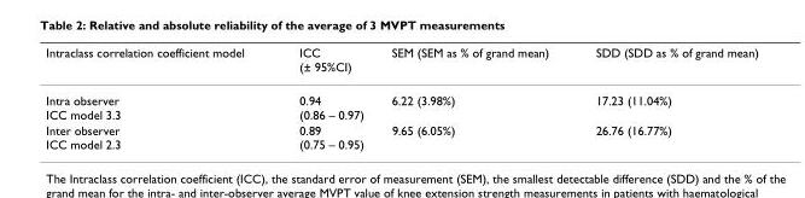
<table><thead><tr><td>Intraclass correlation coefficient model</td><td>ICC (± 95%CI)</td><td>SEM (SEM as % of grand mean)</td><td>SDD (SDD as % of grand mean)</td></tr></thead><tbody><tr><td>Intra observer ICC model 3.3</td><td>0.94 (0.86 – 0.97)</td><td>6.22 (3.98%)</td><td>17.23 (11.04%)</td></tr><tr><td>Inter observer ICC model 2.3</td><td>0.89 (0.75 – 0.95)</td><td>9.65 (6.05%)</td><td>26.76 (16.77%)</td></tr></tbody></table>